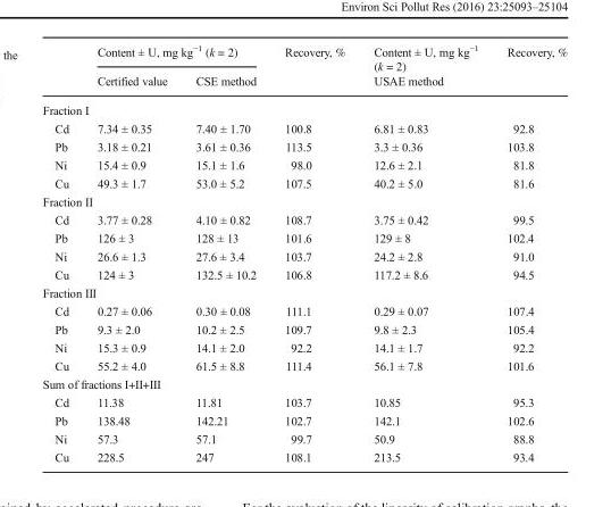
<table><thead><tr><td rowspan="2"></td><td colspan="2">Content ± U, mg kg<sup>−1</sup> (k = 2)</td><td rowspan="2">Recovery, %</td><td rowspan="2">Content ± U, mg kg<sup>−1</sup> (k = 2) USAE method</td><td rowspan="2">Recovery, %</td></tr><tr><td>Certified value</td><td>CSE method</td></tr></thead><tbody><tr><td colspan="6">Fraction I</td></tr><tr><td>Cd</td><td>7.34 ± 0.35</td><td>7.40 ± 1.70</td><td>100.8</td><td>6.81 ± 0.83</td><td>92.8</td></tr><tr><td>Pb</td><td>3.18 ± 0.21</td><td>3.61 ± 0.36</td><td>113.5</td><td>3.3 ± 0.36</td><td>103.8</td></tr><tr><td>Ni</td><td>15.4 ± 0.9</td><td>15.1 ± 1.6</td><td>98.0</td><td>12.6 ± 2.1</td><td>81.8</td></tr><tr><td>Cu</td><td>49.3 ± 1.7</td><td>53.0 ± 5.2</td><td>107.5</td><td>40.2 ± 5.0</td><td>81.6</td></tr><tr><td colspan="6">Fraction II</td></tr><tr><td>Cd</td><td>3.77 ± 0.28</td><td>4.10 ± 0.82</td><td>108.7</td><td>3.75 ± 0.42</td><td>99.5</td></tr><tr><td>Pb</td><td>126 ± 3</td><td>128 ± 13</td><td>101.6</td><td>129 ± 8</td><td>102.4</td></tr><tr><td>Ni</td><td>26.6 ± 1.3</td><td>27.6 ± 3.4</td><td>103.7</td><td>24.2 ± 2.8</td><td>91.0</td></tr><tr><td>Cu</td><td>124 ± 3</td><td>132.5 ± 10.2</td><td>106.8</td><td>117.2 ± 8.6</td><td>94.5</td></tr><tr><td colspan="6">Fraction III</td></tr><tr><td>Cd</td><td>0.27 ± 0.06</td><td>0.30 ± 0.08</td><td>111.1</td><td>0.29 ± 0.07</td><td>107.4</td></tr><tr><td>Pb</td><td>9.3 ± 2.0</td><td>10.2 ± 2.5</td><td>109.7</td><td>9.8 ± 2.3</td><td>105.4</td></tr><tr><td>Ni</td><td>15.3 ± 0.9</td><td>14.1 ± 2.0</td><td>92.2</td><td>14.1 ± 1.7</td><td>92.2</td></tr><tr><td>Cu</td><td>55.2 ± 4.0</td><td>61.5 ± 8.8</td><td>111.4</td><td>56.1 ± 7.8</td><td>101.6</td></tr><tr><td colspan="6">Sum of fractions I+II+III</td></tr><tr><td>Cd</td><td>11.38</td><td>11.81</td><td>103.7</td><td>10.85</td><td>95.3</td></tr><tr><td>Pb</td><td>138.48</td><td>142.21</td><td>102.7</td><td>142.1</td><td>102.6</td></tr><tr><td>Ni</td><td>57.3</td><td>57.1</td><td>99.7</td><td>50.9</td><td>88.8</td></tr><tr><td>Cu</td><td>228.5</td><td>247</td><td>108.1</td><td>213.5</td><td>93.4</td></tr></tbody></table>